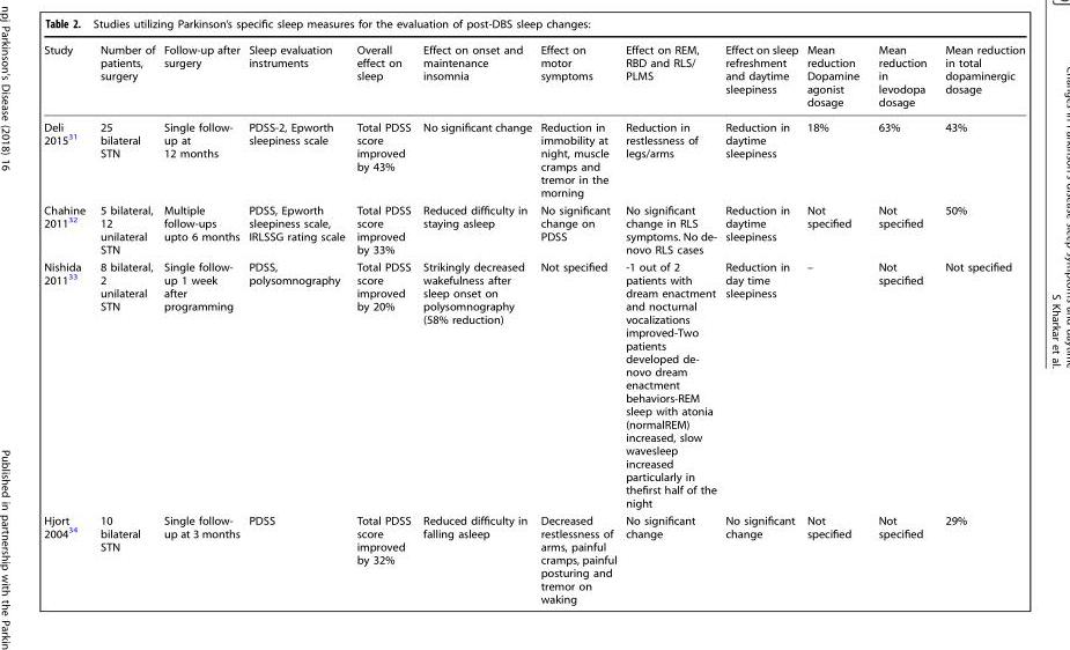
<table><thead><tr><td>Study</td><td>Number of patients, surgery</td><td>Follow-up after surgery</td><td>Sleep evaluation instruments</td><td>Overall effect on sleep</td><td>Effect on onset and maintenance insomnia</td><td>Effect on motor symptoms</td><td>Effect on REM, RBD and RLS/ PLMS</td><td>Effect on sleep refreshment and daytime sleepiness</td><td>Mean reduction Dopamine agonist dosage</td><td>Mean reduction in levodopa dosage</td><td>Mean reduction in total dopaminergic dosage</td></tr></thead><tbody><tr><td>Deli 2015<sup>31</sup></td><td>25 bilateral STN</td><td>Single follow- up at 12 months</td><td>PDSS-2, Epworth sleepiness scale</td><td>Total PDSS score improved by 43%</td><td>No significant change</td><td>Reduction in immobility at night, muscle cramps and tremor in the morning</td><td>Reduction in restlessness of legs/arms</td><td>Reduction in daytime sleepiness</td><td>18%</td><td>63%</td><td>43%</td></tr><tr><td>Chahine 2011<sup>32</sup></td><td>5 bilateral, 12 unilateral STN</td><td>Multiple follow-ups upto 6 months</td><td>PDSS, Epworth sleepiness scale, IRLSSG rating scale</td><td>Total PDSS score improved by 33%</td><td>Reduced difficulty in staying asleep</td><td>No significant change on PDSS</td><td>No significant change in RLS symptoms. No de- novo RLS cases</td><td>Reduction in daytime sleepiness</td><td>Not specified</td><td>Not specified</td><td>50%</td></tr><tr><td>Nishida 2011<sup>33</sup></td><td>8 bilateral, 2 unilateral STN</td><td>Single follow- up 1 week after programming</td><td>PDSS, polysomnography</td><td>Total PDSS score improved by 20%</td><td>Strikingly decreased wakefulness after sleep onset on polysomnography (58% reduction)</td><td>Not specified</td><td>-1 out of 2 patients with dream enactment and nocturnal vocalizations improved-Two patients developed de- novo dream enactment behaviors-REM sleep with atonia (normalREM) increased, slow wavesleep increased particularly in thefirst half of the night</td><td>Reduction in day time sleepiness</td><td>–</td><td>Not specified</td><td>Not specified</td></tr><tr><td>Hjort 2004<sup>34</sup></td><td>10 bilateral STN</td><td>Single follow- up at 3 months</td><td>PDSS</td><td>Total PDSS score improved by 32%</td><td>Reduced difficulty in falling asleep</td><td>Decreased restlessness of arms, painful cramps, painful posturing and tremor on waking</td><td>No significant change</td><td>No significant change</td><td>Not specified</td><td>Not specified</td><td>29%</td></tr></tbody></table>